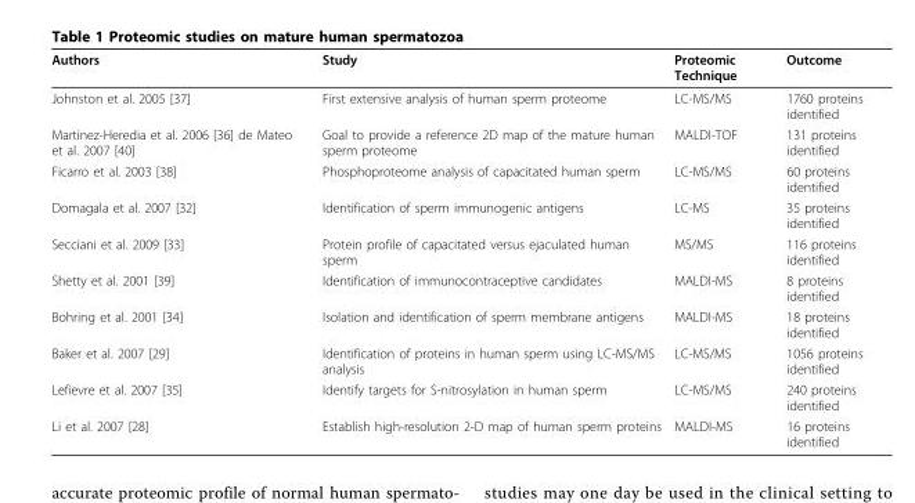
<table><thead><tr><td>Authors</td><td>Study</td><td>Proteomic Technique</td><td>Outcome</td></tr></thead><tbody><tr><td>Johnston et al. 2005 [37]</td><td>First extensive analysis of human sperm proteome</td><td>LC-MS/MS</td><td>1760 proteins identified</td></tr><tr><td>Martinez-Heredia et al. 2006 [36] de Mateo et al. 2007 [40]</td><td>Goal to provide a reference 2D map of the mature human sperm proteome</td><td>MALDI-TOF</td><td>131 proteins identified</td></tr><tr><td>Ficarro et al. 2003 [38]</td><td>Phosphoproteome analysis of capacitated human sperm</td><td>LC-MS/MS</td><td>60 proteins identified</td></tr><tr><td>Domagala et al. 2007 [32]</td><td>Identification of sperm immunogenic antigens</td><td>LC-MS</td><td>35 proteins identified</td></tr><tr><td>Secciani et al. 2009 [33]</td><td>Protein profile of capacitated versus ejaculated human sperm</td><td>MS/MS</td><td>116 proteins identified</td></tr><tr><td>Shetty et al. 2001 [39]</td><td>Identification of immunocontraceptive candidates</td><td>MALDI-MS</td><td>8 proteins identified</td></tr><tr><td>Bohring et al. 2001 [34]</td><td>Isolation and identification of sperm membrane antigens</td><td>MALDI-MS</td><td>18 proteins identified</td></tr><tr><td>Baker et al. 2007 [29]</td><td>Identification of proteins in human sperm using LC-MS/MS analysis</td><td>LC-MS/MS</td><td>1056 proteins identified</td></tr><tr><td>Lefievre et al. 2007 [35]</td><td>Identify targets for S-nitrosylation in human sperm</td><td>LC-MS/MS</td><td>240 proteins identified</td></tr><tr><td>Li et al. 2007 [28]</td><td>Establish high-resolution 2-D map of human sperm proteins</td><td>MALDI-MS</td><td>16 proteins identified</td></tr></tbody></table>